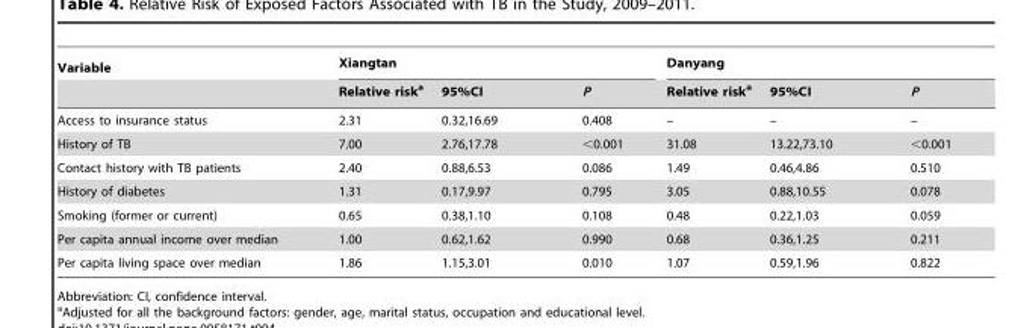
<table><thead><tr><td rowspan="2">Variable</td><td colspan="3">Xiangtan</td><td colspan="3">Danyang</td></tr><tr><td>Relative risk<sup>a</sup></td><td>95%CI</td><td>P</td><td>Relative risk<sup>a</sup></td><td>95%CI</td><td>P</td></tr></thead><tbody><tr><td>Access to insurance status</td><td>2.31</td><td>0.32,16.69</td><td>0.408</td><td>–</td><td>–</td><td>–</td></tr><tr><td>History of TB</td><td>7.00</td><td>2.76,17.78</td><td>&lt;0.001</td><td>31.08</td><td>13.22,73.10</td><td>&lt;0.001</td></tr><tr><td>Contact history with TB patients</td><td>2.40</td><td>0.88,6.53</td><td>0.086</td><td>1.49</td><td>0.46,4.86</td><td>0.510</td></tr><tr><td>History of diabetes</td><td>1.31</td><td>0.17,9.97</td><td>0.795</td><td>3.05</td><td>0.88,10.55</td><td>0.078</td></tr><tr><td>Smoking (former or current)</td><td>0.65</td><td>0.38,1.10</td><td>0.108</td><td>0.48</td><td>0.22,1.03</td><td>0.059</td></tr><tr><td>Per capita annual income over median</td><td>1.00</td><td>0.62,1.62</td><td>0.990</td><td>0.68</td><td>0.36,1.25</td><td>0.211</td></tr><tr><td>Per capita living space over median</td><td>1.86</td><td>1.15,3.01</td><td>0.010</td><td>1.07</td><td>0.59,1.96</td><td>0.822</td></tr></tbody></table>